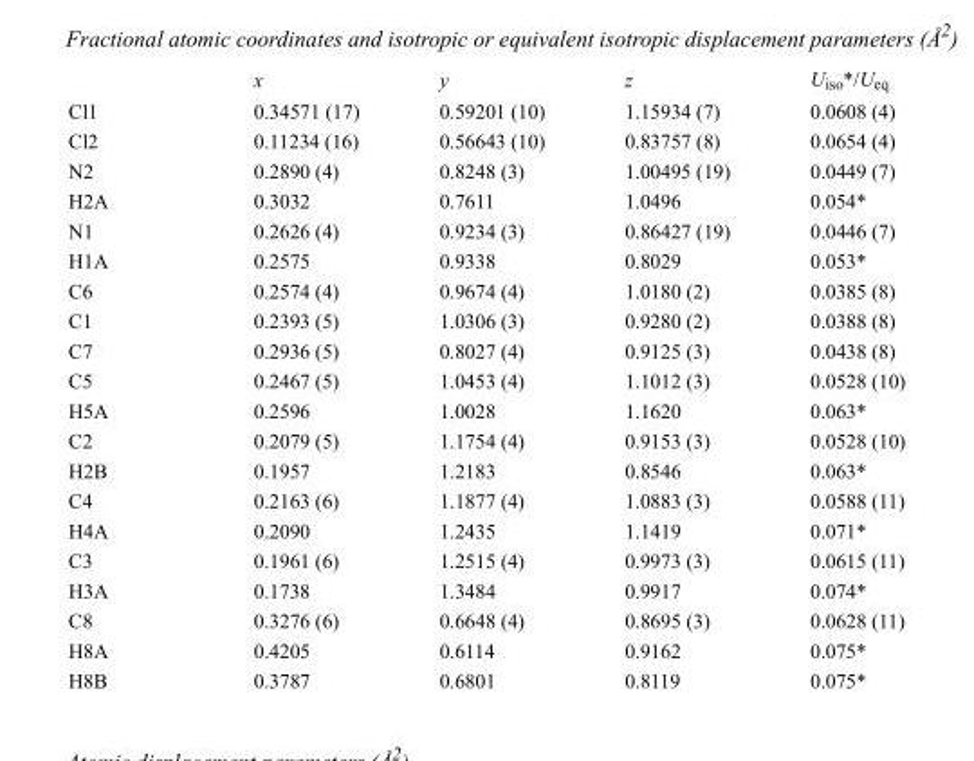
<table><thead><tr><td></td><td>x</td><td>y</td><td>z</td><td>U<sub>iso</sub>*/U<sub>eq</sub></td></tr></thead><tbody><tr><td>Cl1</td><td>0.34571 (17)</td><td>0.59201 (10)</td><td>1.15934 (7)</td><td>0.0608 (4)</td></tr><tr><td>Cl2</td><td>0.11234 (16)</td><td>0.56643 (10)</td><td>0.83757 (8)</td><td>0.0654 (4)</td></tr><tr><td>N2</td><td>0.2890 (4)</td><td>0.8248 (3)</td><td>1.00495 (19)</td><td>0.0449 (7)</td></tr><tr><td>H2A</td><td>0.3032</td><td>0.7611</td><td>1.0496</td><td>0.054*</td></tr><tr><td>N1</td><td>0.2626 (4)</td><td>0.9234 (3)</td><td>0.86427 (19)</td><td>0.0446 (7)</td></tr><tr><td>H1A</td><td>0.2575</td><td>0.9338</td><td>0.8029</td><td>0.053*</td></tr><tr><td>C6</td><td>0.2574 (4)</td><td>0.9674 (4)</td><td>1.0180 (2)</td><td>0.0385 (8)</td></tr><tr><td>C1</td><td>0.2393 (5)</td><td>1.0306 (3)</td><td>0.9280 (2)</td><td>0.0388 (8)</td></tr><tr><td>C7</td><td>0.2936 (5)</td><td>0.8027 (4)</td><td>0.9125 (3)</td><td>0.0438 (8)</td></tr><tr><td>C5</td><td>0.2467 (5)</td><td>1.0453 (4)</td><td>1.1012 (3)</td><td>0.0528 (10)</td></tr><tr><td>H5A</td><td>0.2596</td><td>1.0028</td><td>1.1620</td><td>0.063*</td></tr><tr><td>C2</td><td>0.2079 (5)</td><td>1.1754 (4)</td><td>0.9153 (3)</td><td>0.0528 (10)</td></tr><tr><td>H2B</td><td>0.1957</td><td>1.2183</td><td>0.8546</td><td>0.063*</td></tr><tr><td>C4</td><td>0.2163 (6)</td><td>1.1877 (4)</td><td>1.0883 (3)</td><td>0.0588 (11)</td></tr><tr><td>H4A</td><td>0.2090</td><td>1.2435</td><td>1.1419</td><td>0.071*</td></tr><tr><td>C3</td><td>0.1961 (6)</td><td>1.2515 (4)</td><td>0.9973 (3)</td><td>0.0615 (11)</td></tr><tr><td>H3A</td><td>0.1738</td><td>1.3484</td><td>0.9917</td><td>0.074*</td></tr><tr><td>C8</td><td>0.3276 (6)</td><td>0.6648 (4)</td><td>0.8695 (3)</td><td>0.0628 (11)</td></tr><tr><td>H8A</td><td>0.4205</td><td>0.6114</td><td>0.9162</td><td>0.075*</td></tr><tr><td>H8B</td><td>0.3787</td><td>0.6801</td><td>0.8119</td><td>0.075*</td></tr></tbody></table>